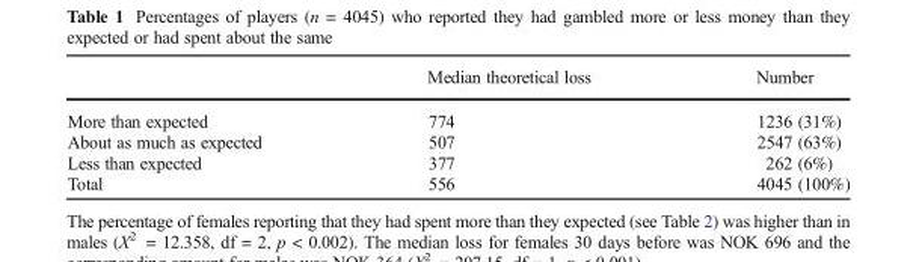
<table><thead><tr><td></td><td>Median theoretical loss</td><td>Number</td></tr></thead><tbody><tr><td>More than expected</td><td>774</td><td>1236 (31%)</td></tr><tr><td>About as much as expected</td><td>507</td><td>2547 (63%)</td></tr><tr><td>Less than expected</td><td>377</td><td>262 (6%)</td></tr><tr><td>Total</td><td>556</td><td>4045 (100%)</td></tr></tbody></table>